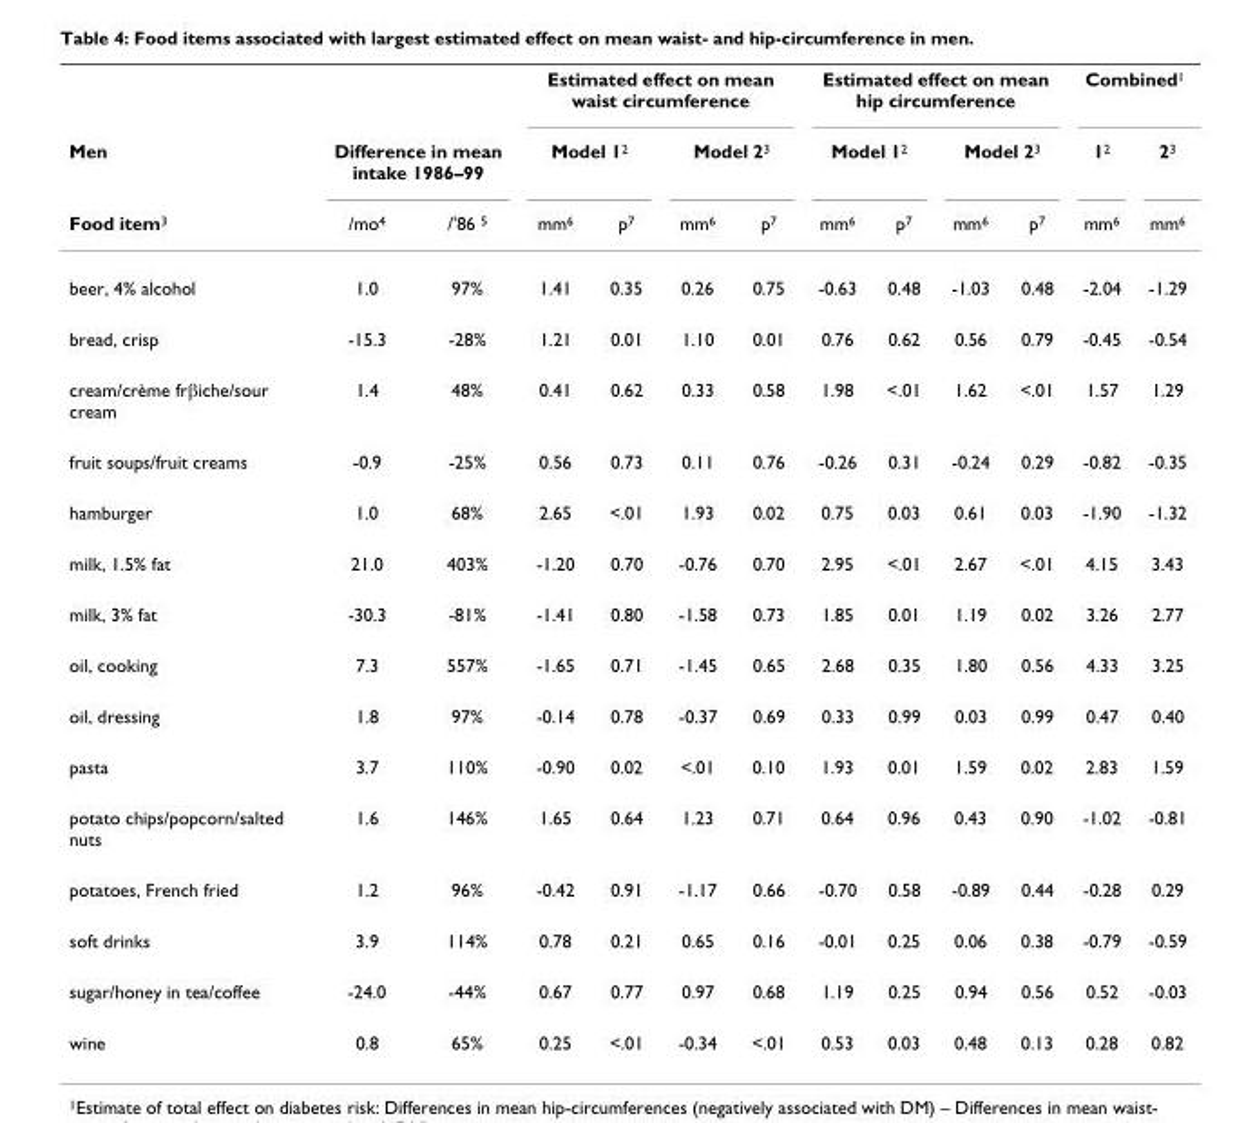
<table><thead><tr><td rowspan="3">Men Food item<sup>3</sup></td><td></td><td></td><td colspan="4">Estimated effect on mean waist circumference</td><td colspan="4">Estimated effect on mean hip circumference</td><td colspan="2">Combined<sup>1</sup></td></tr><tr><td colspan="2">Difference in mean intake 1986–99</td><td colspan="2">Model 1<sup>2</sup></td><td colspan="2">Model 2<sup>3</sup></td><td colspan="2">Model 1<sup>2</sup></td><td colspan="2">Model 2<sup>3</sup></td><td rowspan="2">1<sup>2</sup> mm<sup>6</sup></td><td rowspan="2">2<sup>3</sup> mm<sup>6</sup></td></tr><tr><td>/mo<sup>4</sup></td><td>/&#x27;86 <sup>5</sup></td><td>mm<sup>6</sup></td><td>p<sup>7</sup></td><td>mm<sup>6</sup></td><td>p<sup>7</sup></td><td>mm<sup>6</sup></td><td>p<sup>7</sup></td><td>mm<sup>6</sup></td><td>p<sup>7</sup></td></tr></thead><tbody><tr><td>beer, 4% alcohol</td><td>1.0</td><td>97%</td><td>1.41</td><td>0.35</td><td>0.26</td><td>0.75</td><td>-0.63</td><td>0.48</td><td>-1.03</td><td>0.48</td><td>-2.04</td><td>-1.29</td></tr><tr><td>bread, crisp</td><td>-15.3</td><td>-28%</td><td>1.21</td><td>0.01</td><td>1.10</td><td>0.01</td><td>0.76</td><td>0.62</td><td>0.56</td><td>0.79</td><td>-0.45</td><td>-0.54</td></tr><tr><td>cream/crème frβiche/sour cream</td><td>1.4</td><td>48%</td><td>0.41</td><td>0.62</td><td>0.33</td><td>0.58</td><td>1.98</td><td>&lt;.01</td><td>1.62</td><td>&lt;.01</td><td>1.57</td><td>1.29</td></tr><tr><td>fruit soups/fruit creams</td><td>-0.9</td><td>-25%</td><td>0.56</td><td>0.73</td><td>0.11</td><td>0.76</td><td>-0.26</td><td>0.31</td><td>-0.24</td><td>0.29</td><td>-0.82</td><td>-0.35</td></tr><tr><td>hamburger</td><td>1.0</td><td>68%</td><td>2.65</td><td>&lt;.01</td><td>1.93</td><td>0.02</td><td>0.75</td><td>0.03</td><td>0.61</td><td>0.03</td><td>-1.90</td><td>-1.32</td></tr><tr><td>milk, 1.5% fat</td><td>21.0</td><td>403%</td><td>-1.20</td><td>0.70</td><td>-0.76</td><td>0.70</td><td>2.95</td><td>&lt;.01</td><td>2.67</td><td>&lt;.01</td><td>4.15</td><td>3.43</td></tr><tr><td>milk, 3% fat</td><td>-30.3</td><td>-81%</td><td>-1.41</td><td>0.80</td><td>-1.58</td><td>0.73</td><td>1.85</td><td>0.01</td><td>1.19</td><td>0.02</td><td>3.26</td><td>2.77</td></tr><tr><td>oil, cooking</td><td>7.3</td><td>557%</td><td>-1.65</td><td>0.71</td><td>-1.45</td><td>0.65</td><td>2.68</td><td>0.35</td><td>1.80</td><td>0.56</td><td>4.33</td><td>3.25</td></tr><tr><td>oil, dressing</td><td>1.8</td><td>97%</td><td>-0.14</td><td>0.78</td><td>-0.37</td><td>0.69</td><td>0.33</td><td>0.99</td><td>0.03</td><td>0.99</td><td>0.47</td><td>0.40</td></tr><tr><td>pasta</td><td>3.7</td><td>110%</td><td>-0.90</td><td>0.02</td><td>&lt;.01</td><td>0.10</td><td>1.93</td><td>0.01</td><td>1.59</td><td>0.02</td><td>2.83</td><td>1.59</td></tr><tr><td>potato chips/popcorn/salted nuts</td><td>1.6</td><td>146%</td><td>1.65</td><td>0.64</td><td>1.23</td><td>0.71</td><td>0.64</td><td>0.96</td><td>0.43</td><td>0.90</td><td>-1.02</td><td>-0.81</td></tr><tr><td>potatoes, French fried</td><td>1.2</td><td>96%</td><td>-0.42</td><td>0.91</td><td>-1.17</td><td>0.66</td><td>-0.70</td><td>0.58</td><td>-0.89</td><td>0.44</td><td>-0.28</td><td>0.29</td></tr><tr><td>soft drinks</td><td>3.9</td><td>114%</td><td>0.78</td><td>0.21</td><td>0.65</td><td>0.16</td><td>-0.01</td><td>0.25</td><td>0.06</td><td>0.38</td><td>-0.79</td><td>-0.59</td></tr><tr><td>sugar/honey in tea/coffee</td><td>-24.0</td><td>-44%</td><td>0.67</td><td>0.77</td><td>0.97</td><td>0.68</td><td>1.19</td><td>0.25</td><td>0.94</td><td>0.56</td><td>0.52</td><td>-0.03</td></tr><tr><td>wine</td><td>0.8</td><td>65%</td><td>0.25</td><td>&lt;.01</td><td>-0.34</td><td>&lt;.01</td><td>0.53</td><td>0.03</td><td>0.48</td><td>0.13</td><td>0.28</td><td>0.82</td></tr></tbody></table>